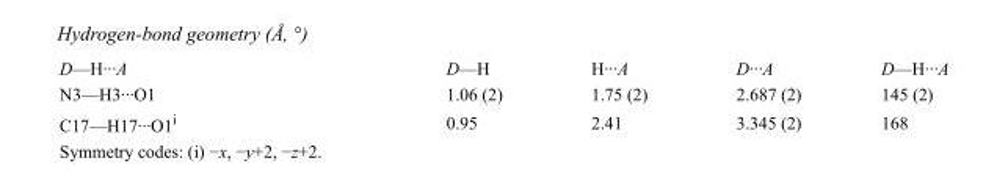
<table><tbody><tr><td>D—H···A</td><td>D—H</td><td>H···A</td><td>D···A</td><td>D—H···A</td></tr><tr><td>N3—H3···O1</td><td>1.06 (2)</td><td>1.75 (2)</td><td>2.687 (2)</td><td>145 (2)</td></tr><tr><td>C17—H17···O1<sup>i</sup></td><td>0.95</td><td>2.41</td><td>3.345 (2)</td><td>168</td></tr></tbody></table>